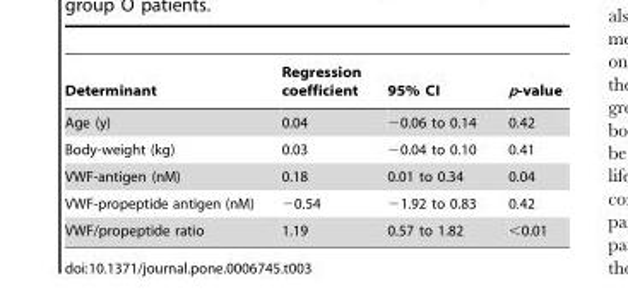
<table><thead><tr><td>Determinant</td><td>Regression coefficient</td><td>95% CI</td><td>p-value</td></tr></thead><tbody><tr><td>Age (y)</td><td>0.04</td><td>−0.06 to 0.14</td><td>0.42</td></tr><tr><td>Body-weight (kg)</td><td>0.03</td><td>−0.04 to 0.10</td><td>0.41</td></tr><tr><td>VWF-antigen (nM)</td><td>0.18</td><td>0.01 to 0.34</td><td>0.04</td></tr><tr><td>VWF-propeptide antigen (nM)</td><td>−0.54</td><td>−1.92 to 0.83</td><td>0.42</td></tr><tr><td>VWF/propeptide ratio</td><td>1.19</td><td>0.57 to 1.82</td><td>&lt;0.01</td></tr></tbody></table>